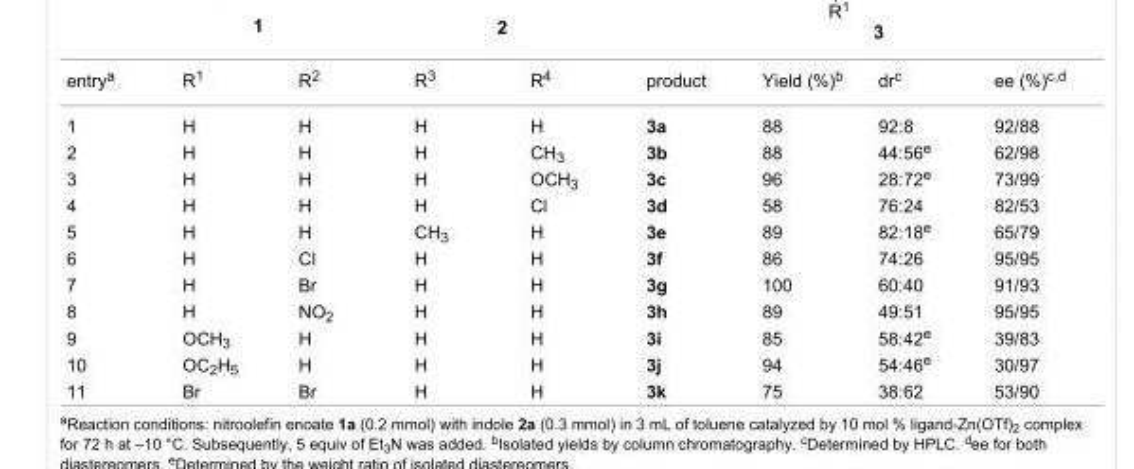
<table><tbody><tr><td>entry<sup>a</sup></td><td>R<sup>1</sup></td><td>R<sup>2</sup></td><td>R<sup>3</sup></td><td>R<sup>4</sup></td><td>product</td><td>Yield (%)<sup>b</sup></td><td>dr<sup>c</sup></td><td>ee (%)<sup>c,d</sup></td></tr><tr><td>1</td><td>H</td><td>H</td><td>H</td><td>H</td><td>3a</td><td>88</td><td>92:8</td><td>92/88</td></tr><tr><td>2</td><td>H</td><td>H</td><td>H</td><td>CH<sub>3</sub></td><td>3b</td><td>88</td><td>44:56<sup>e</sup></td><td>62/98</td></tr><tr><td>3</td><td>H</td><td>H</td><td>H</td><td>OCH<sub>3</sub></td><td>3c</td><td>96</td><td>28:72<sup>e</sup></td><td>73/99</td></tr><tr><td>4</td><td>H</td><td>H</td><td>H</td><td>Cl</td><td>3d</td><td>58</td><td>76:24</td><td>82/53</td></tr><tr><td>5</td><td>H</td><td>H</td><td>CH<sub>3</sub></td><td>H</td><td>3e</td><td>89</td><td>82:18<sup>e</sup></td><td>65/79</td></tr><tr><td>6</td><td>H</td><td>Cl</td><td>H</td><td>H</td><td>3f</td><td>86</td><td>74:26</td><td>95/95</td></tr><tr><td>7</td><td>H</td><td>Br</td><td>H</td><td>H</td><td>3g</td><td>100</td><td>60:40</td><td>91/93</td></tr><tr><td>8</td><td>H</td><td>NO<sub>2</sub></td><td>H</td><td>H</td><td>3h</td><td>89</td><td>49:51</td><td>95/95</td></tr><tr><td>9</td><td>OCH<sub>3</sub></td><td>H</td><td>H</td><td>H</td><td>3i</td><td>85</td><td>58:42<sup>e</sup></td><td>39/83</td></tr><tr><td>10</td><td>OC<sub>2</sub>H<sub>5</sub></td><td>H</td><td>H</td><td>H</td><td>3j</td><td>94</td><td>54:46<sup>e</sup></td><td>30/97</td></tr><tr><td>11</td><td>Br</td><td>Br</td><td>H</td><td>H</td><td>3k</td><td>75</td><td>38:62</td><td>53/90</td></tr></tbody></table>